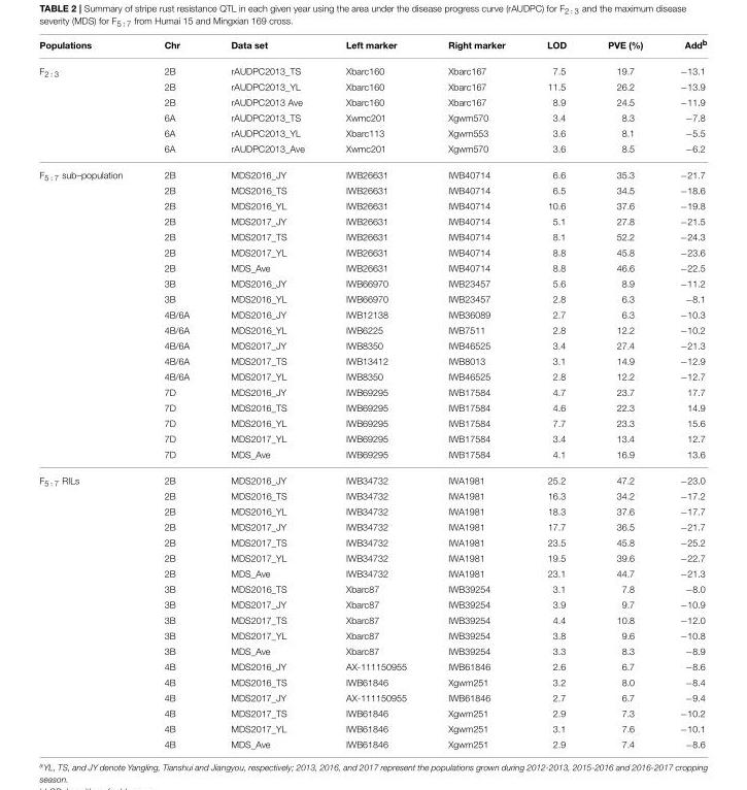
<table><thead><tr><td>Populations</td><td>Chr</td><td>Data set</td><td>Left marker</td><td>Right marker</td><td>LOD</td><td>PVE (%)</td><td>Add<sup>b</sup></td></tr></thead><tbody><tr><td rowspan="6">F<sub>2 : 3</sub></td><td>2B</td><td>rAUDPC2013_TS</td><td>Xbarc160</td><td>Xbarc167</td><td>7.5</td><td>19.7</td><td>−13.1</td></tr><tr><td>2B</td><td>rAUDPC2013_YL</td><td>Xbarc160</td><td>Xbarc167</td><td>11.5</td><td>26.2</td><td>−13.9</td></tr><tr><td>2B</td><td>rAUDPC2013 Ave</td><td>Xbarc160</td><td>Xbarc167</td><td>8.9</td><td>24.5</td><td>−11.9</td></tr><tr><td>6A</td><td>rAUDPC2013_TS</td><td>Xwmc201</td><td>Xgwm570</td><td>3.4</td><td>8.3</td><td>−7.8</td></tr><tr><td>6A</td><td>rAUDPC2013_YL</td><td>Xbarc113</td><td>Xgwm553</td><td>3.6</td><td>8.1</td><td>−5.5</td></tr><tr><td>6A</td><td>rAUDPC2013_Ave</td><td>Xwmc201</td><td>Xgwm570</td><td>3.6</td><td>8.5</td><td>−6.2</td></tr><tr><td rowspan="19">F<sub>5 : 7</sub> sub–population</td><td>2B</td><td>MDS2016_JY</td><td>IWB26631</td><td>IWB40714</td><td>6.6</td><td>35.3</td><td>−21.7</td></tr><tr><td>2B</td><td>MDS2016_TS</td><td>IWB26631</td><td>IWB40714</td><td>6.5</td><td>34.5</td><td>−18.6</td></tr><tr><td>2B</td><td>MDS2016_YL</td><td>IWB26631</td><td>IWB40714</td><td>10.6</td><td>37.6</td><td>−19.8</td></tr><tr><td>2B</td><td>MDS2017_JY</td><td>IWB26631</td><td>IWB40714</td><td>5.1</td><td>27.8</td><td>−21.5</td></tr><tr><td>2B</td><td>MDS2017_TS</td><td>IWB26631</td><td>IWB40714</td><td>8.1</td><td>52.2</td><td>−24.3</td></tr><tr><td>2B</td><td>MDS2017_YL</td><td>IWB26631</td><td>IWB40714</td><td>8.8</td><td>45.8</td><td>−23.6</td></tr><tr><td>2B</td><td>MDS_Ave</td><td>IWB26631</td><td>IWB40714</td><td>8.8</td><td>46.6</td><td>−22.5</td></tr><tr><td>3B</td><td>MDS2016_JY</td><td>IWB66970</td><td>IWB23457</td><td>5.6</td><td>8.9</td><td>−11.2</td></tr><tr><td>3B</td><td>MDS2016_YL</td><td>IWB66970</td><td>IWB23457</td><td>2.8</td><td>6.3</td><td>−8.1</td></tr><tr><td>4B/6A</td><td>MDS2016_JY</td><td>IWB12138</td><td>IWB36089</td><td>2.7</td><td>6.3</td><td>−10.3</td></tr><tr><td>4B/6A</td><td>MDS2016_YL</td><td>IWB6225</td><td>IWB7511</td><td>2.8</td><td>12.2</td><td>−10.2</td></tr><tr><td>4B/6A</td><td>MDS2017_JY</td><td>IWB8350</td><td>IWB46525</td><td>3.4</td><td>27.4</td><td>−21.3</td></tr><tr><td>4B/6A</td><td>MDS2017_TS</td><td>IWB13412</td><td>IWB8013</td><td>3.1</td><td>14.9</td><td>−12.9</td></tr><tr><td>4B/6A</td><td>MDS2017_YL</td><td>IWB8350</td><td>IWB46525</td><td>2.8</td><td>12.2</td><td>−12.7</td></tr><tr><td>7D</td><td>MDS2016_JY</td><td>IWB69295</td><td>IWB17584</td><td>4.7</td><td>23.7</td><td>17.7</td></tr><tr><td>7D</td><td>MDS2016_TS</td><td>IWB69295</td><td>IWB17584</td><td>4.6</td><td>22.3</td><td>14.9</td></tr><tr><td>7D</td><td>MDS2016_YL</td><td>IWB69295</td><td>IWB17584</td><td>7.7</td><td>23.3</td><td>15.6</td></tr><tr><td>7D</td><td>MDS2017_YL</td><td>IWB69295</td><td>IWB17584</td><td>3.4</td><td>13.4</td><td>12.7</td></tr><tr><td>7D</td><td>MDS_Ave</td><td>IWB69295</td><td>IWB17584</td><td>4.1</td><td>16.9</td><td>13.6</td></tr><tr><td rowspan="18">F<sub>5 : 7</sub> RILs</td><td>2B</td><td>MDS2016_JY</td><td>IWB34732</td><td>IWA1981</td><td>25.2</td><td>47.2</td><td>−23.0</td></tr><tr><td>2B</td><td>MDS2016_TS</td><td>IWB34732</td><td>IWA1981</td><td>16.3</td><td>34.2</td><td>−17.2</td></tr><tr><td>2B</td><td>MDS2016_YL</td><td>IWB34732</td><td>IWA1981</td><td>18.3</td><td>37.6</td><td>−17.7</td></tr><tr><td>2B</td><td>MDS2017_JY</td><td>IWB34732</td><td>IWA1981</td><td>17.7</td><td>36.5</td><td>−21.7</td></tr><tr><td>2B</td><td>MDS2017_TS</td><td>IWB34732</td><td>IWA1981</td><td>23.5</td><td>45.8</td><td>−25.2</td></tr><tr><td>2B</td><td>MDS2017_YL</td><td>IWB34732</td><td>IWA1981</td><td>19.5</td><td>39.6</td><td>−22.7</td></tr><tr><td>2B</td><td>MDS_Ave</td><td>IWB34732</td><td>IWA1981</td><td>23.1</td><td>44.7</td><td>−21.3</td></tr><tr><td>3B</td><td>MDS2016_TS</td><td>Xbarc87</td><td>IWB39254</td><td>3.1</td><td>7.8</td><td>−8.0</td></tr><tr><td>3B</td><td>MDS2017_JY</td><td>Xbarc87</td><td>IWB39254</td><td>3.9</td><td>9.7</td><td>−10.9</td></tr><tr><td>3B</td><td>MDS2017_TS</td><td>Xbarc87</td><td>IWB39254</td><td>4.4</td><td>10.8</td><td>−12.0</td></tr><tr><td>3B</td><td>MDS2017_YL</td><td>Xbarc87</td><td>IWB39254</td><td>3.8</td><td>9.6</td><td>−10.8</td></tr><tr><td>3B</td><td>MDS_Ave</td><td>Xbarc87</td><td>IWB39254</td><td>3.3</td><td>8.3</td><td>−8.9</td></tr><tr><td>4B</td><td>MDS2016_JY</td><td>AX-111150955</td><td>IWB61846</td><td>2.6</td><td>6.7</td><td>−8.6</td></tr><tr><td>4B</td><td>MDS2016_TS</td><td>IWB61846</td><td>Xgwm251</td><td>3.2</td><td>8.0</td><td>−8.4</td></tr><tr><td>4B</td><td>MDS2017_JY</td><td>AX-111150955</td><td>IWB61846</td><td>2.7</td><td>6.7</td><td>−9.4</td></tr><tr><td>4B</td><td>MDS2017_TS</td><td>IWB61846</td><td>Xgwm251</td><td>2.9</td><td>7.3</td><td>−10.2</td></tr><tr><td>4B</td><td>MDS2017_YL</td><td>IWB61846</td><td>Xgwm251</td><td>3.1</td><td>7.6</td><td>−10.1</td></tr><tr><td>4B</td><td>MDS_Ave</td><td>IWB61846</td><td>Xgwm251</td><td>2.9</td><td>7.4</td><td>−8.6</td></tr></tbody></table>